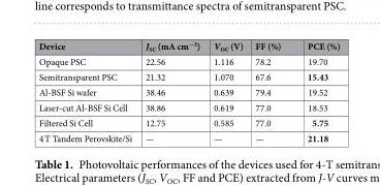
<table><thead><tr><td>Device</td><td>J<sub>SC</sub> (mA cm<sup>−</sup>²)</td><td>V<sub>OC</sub> (V)</td><td>FF (%)</td><td>PCE (%)</td></tr></thead><tbody><tr><td>Opaque PSC</td><td>22.56</td><td>1.116</td><td>78.2</td><td>19.70</td></tr><tr><td>Semitransparent PSC</td><td>21.32</td><td>1.070</td><td>67.6</td><td>15.43</td></tr><tr><td>Al-BSF Si wafer</td><td>38.46</td><td>0.639</td><td>79.4</td><td>19.52</td></tr><tr><td>Laser-cut Al-BSF Si Cell</td><td>38.86</td><td>0.619</td><td>77.0</td><td>18.53</td></tr><tr><td>Filtered Si Cell</td><td>12.75</td><td>0.585</td><td>77.0</td><td>5.75</td></tr><tr><td>4 T Tandem Perovskite/Si</td><td>—</td><td>—</td><td>—</td><td>21.18</td></tr></tbody></table>